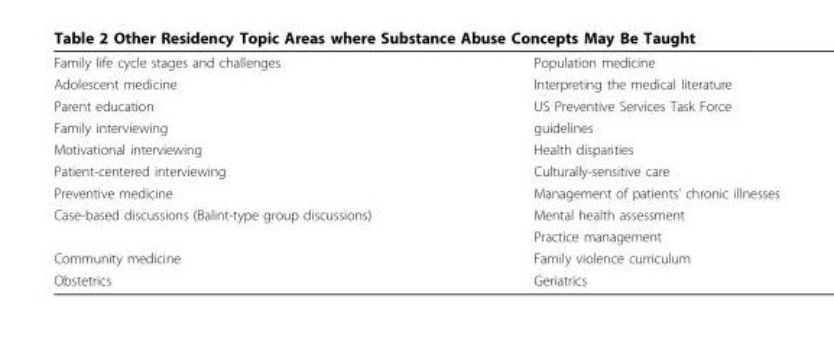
<table><tbody><tr><td>Family life cycle stages and challenges</td><td>Population medicine</td></tr><tr><td>Adolescent medicine</td><td>Interpreting the medical literature</td></tr><tr><td>Parent education</td><td>US Preventive Services Task Force</td></tr><tr><td>Family interviewing</td><td>guidelines</td></tr><tr><td>Motivational interviewing</td><td>Health disparities</td></tr><tr><td>Patient-centered interviewing</td><td>Culturally-sensitive care</td></tr><tr><td>Preventive medicine</td><td>Management of patients’ chronic illnesses</td></tr><tr><td rowspan="2">Case-based discussions (Balint-type group discussions)</td><td>Mental health assessment</td></tr><tr><td>Practice management</td></tr><tr><td>Community medicine</td><td>Family violence curriculum</td></tr><tr><td>Obstetrics</td><td>Geriatrics</td></tr></tbody></table>